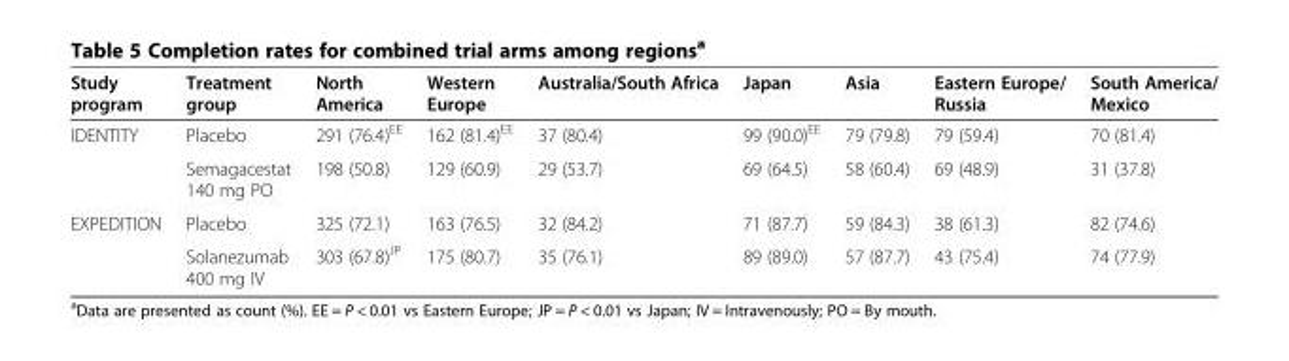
<table><thead><tr><td>Study program</td><td>Treatment group</td><td>North America</td><td>Western Europe</td><td>Australia/South Africa</td><td>Japan</td><td>Asia</td><td>Eastern Europe/ Russia</td><td>South America/ Mexico</td></tr></thead><tbody><tr><td rowspan="2">IDENTITY</td><td>Placebo</td><td>291 (76.4)<sup>EE</sup></td><td>162 (81.4)<sup>EE</sup></td><td>37 (80.4)</td><td>99 (90.0)<sup>EE</sup></td><td>79 (79.8)</td><td>79 (59.4)</td><td>70 (81.4)</td></tr><tr><td>Semagacestat 140 mg PO</td><td>198 (50.8)</td><td>129 (60.9)</td><td>29 (53.7)</td><td>69 (64.5)</td><td>58 (60.4)</td><td>69 (48.9)</td><td>31 (37.8)</td></tr><tr><td rowspan="2">EXPEDITION</td><td>Placebo</td><td>325 (72.1)</td><td>163 (76.5)</td><td>32 (84.2)</td><td>71 (87.7)</td><td>59 (84.3)</td><td>38 (61.3)</td><td>82 (74.6)</td></tr><tr><td>Solanezumab 400 mg IV</td><td>303 (67.8)<sup>JP</sup></td><td>175 (80.7)</td><td>35 (76.1)</td><td>89 (89.0)</td><td>57 (87.7)</td><td>43 (75.4)</td><td>74 (77.9)</td></tr></tbody></table>